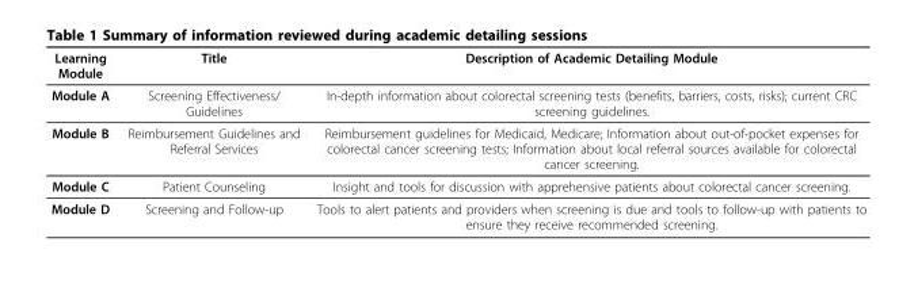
<table><thead><tr><td>Learning Module</td><td>Title</td><td>Description of Academic Detailing Module</td></tr></thead><tbody><tr><td>Module A</td><td>Screening Effectiveness/ Guidelines</td><td>In-depth information about colorectal screening tests (benefits, barriers, costs, risks); current CRC screening guidelines.</td></tr><tr><td>Module B</td><td>Reimbursement Guidelines and Referral Services</td><td>Reimbursement guidelines for Medicaid, Medicare; Information about out-of-pocket expenses for colorectal cancer screening tests; Information about local referral sources available for colorectal cancer screening.</td></tr><tr><td>Module C</td><td>Patient Counseling</td><td>Insight and tools for discussion with apprehensive patients about colorectal cancer screening.</td></tr><tr><td>Module D</td><td>Screening and Follow-up</td><td>Tools to alert patients and providers when screening is due and tools to follow-up with patients to ensure they receive recommended screening.</td></tr></tbody></table>